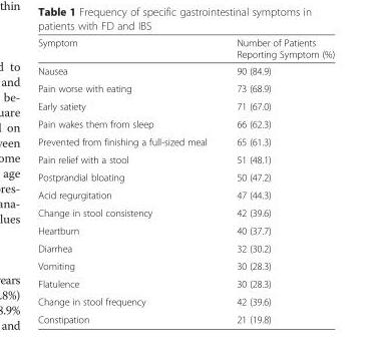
<table><thead><tr><td>Symptom</td><td>Number of Patients Reporting Symptom (%)</td></tr></thead><tbody><tr><td>Nausea</td><td>90 (84.9)</td></tr><tr><td>Pain worse with eating</td><td>73 (68.9)</td></tr><tr><td>Early satiety</td><td>71 (67.0)</td></tr><tr><td>Pain wakes them from sleep</td><td>66 (62.3)</td></tr><tr><td>Prevented from finishing a full-sized meal</td><td>65 (61.3)</td></tr><tr><td>Pain relief with a stool</td><td>51 (48.1)</td></tr><tr><td>Postprandial bloating</td><td>50 (47.2)</td></tr><tr><td>Acid regurgitation</td><td>47 (44.3)</td></tr><tr><td>Change in stool consistency</td><td>42 (39.6)</td></tr><tr><td>Heartburn</td><td>40 (37.7)</td></tr><tr><td>Diarrhea</td><td>32 (30.2)</td></tr><tr><td>Vomiting</td><td>30 (28.3)</td></tr><tr><td>Flatulence</td><td>30 (28.3)</td></tr><tr><td>Change in stool frequency</td><td>42 (39.6)</td></tr><tr><td>Constipation</td><td>21 (19.8)</td></tr></tbody></table>